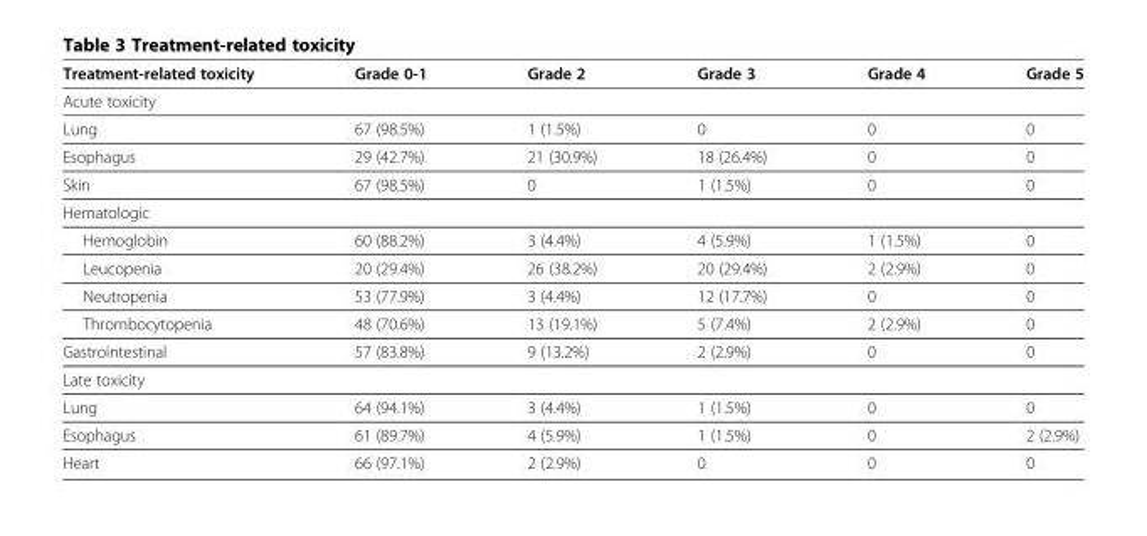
<table><thead><tr><td>Treatment-related toxicity</td><td>Grade 0-1</td><td>Grade 2</td><td>Grade 3</td><td>Grade 4</td><td>Grade 5</td></tr></thead><tbody><tr><td colspan="6">Acute toxicity</td></tr><tr><td>Lung</td><td>67 (98.5%)</td><td>1 (1.5%)</td><td>0</td><td>0</td><td>0</td></tr><tr><td>Esophagus</td><td>29 (42.7%)</td><td>21 (30.9%)</td><td>18 (26.4%)</td><td>0</td><td>0</td></tr><tr><td>Skin</td><td>67 (98.5%)</td><td>0</td><td>1 (1.5%)</td><td>0</td><td>0</td></tr><tr><td colspan="6">Hematologic</td></tr><tr><td>Hemoglobin</td><td>60 (88.2%)</td><td>3 (4.4%)</td><td>4 (5.9%)</td><td>1 (1.5%)</td><td>0</td></tr><tr><td>Leucopenia</td><td>20 (29.4%)</td><td>26 (38.2%)</td><td>20 (29.4%)</td><td>2 (2.9%)</td><td>0</td></tr><tr><td>Neutropenia</td><td>53 (77.9%)</td><td>3 (4.4%)</td><td>12 (17.7%)</td><td>0</td><td>0</td></tr><tr><td>Thrombocytopenia</td><td>48 (70.6%)</td><td>13 (19.1%)</td><td>5 (7.4%)</td><td>2 (2.9%)</td><td>0</td></tr><tr><td>Gastrointestinal</td><td>57 (83.8%)</td><td>9 (13.2%)</td><td>2 (2.9%)</td><td>0</td><td>0</td></tr><tr><td colspan="6">Late toxicity</td></tr><tr><td>Lung</td><td>64 (94.1%)</td><td>3 (4.4%)</td><td>1 (1.5%)</td><td>0</td><td>0</td></tr><tr><td>Esophagus</td><td>61 (89.7%)</td><td>4 (5.9%)</td><td>1 (1.5%)</td><td>0</td><td>2 (2.9%)</td></tr><tr><td>Heart</td><td>66 (97.1%)</td><td>2 (2.9%)</td><td>0</td><td>0</td><td>0</td></tr></tbody></table>